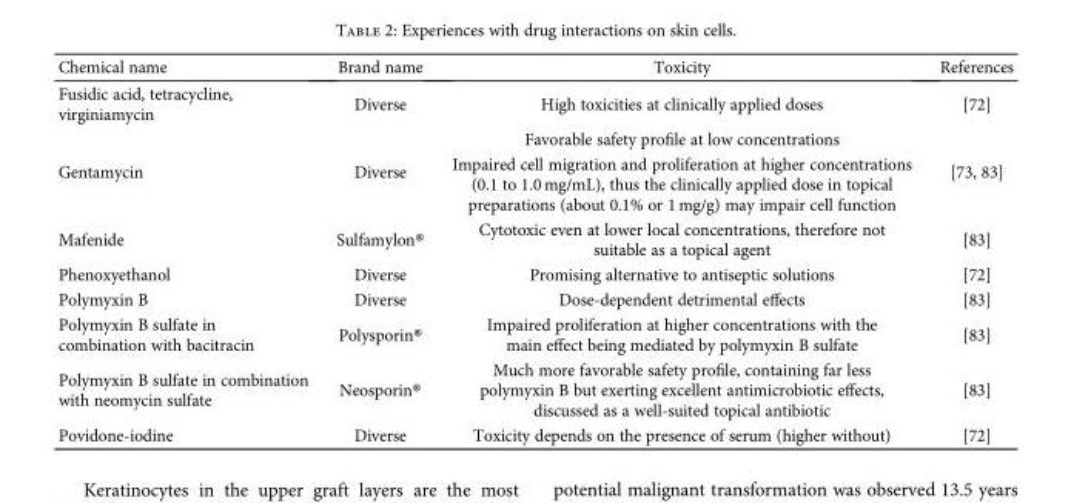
<table><thead><tr><td>Chemical name</td><td>Brand name</td><td>Toxicity</td><td>References</td></tr></thead><tbody><tr><td>Fusidic acid, tetracycline, virginiamycin</td><td>Diverse</td><td>High toxicities at clinically applied doses</td><td>[72]</td></tr><tr><td rowspan="2">Gentamycin</td><td rowspan="2">Diverse</td><td>Favorable safety profile at low concentrations</td><td rowspan="2">[73, 83]</td></tr><tr><td>Impaired cell migration and proliferation at higher concentrations (0.1 to 1.0 mg/mL), thus the clinically applied dose in topical preparations (about 0.1% or 1 mg/g) may impair cell function</td></tr><tr><td>Mafenide</td><td>Sulfamylon®</td><td>Cytotoxic even at lower local concentrations, therefore not suitable as a topical agent</td><td>[83]</td></tr><tr><td>Phenoxyethanol</td><td>Diverse</td><td>Promising alternative to antiseptic solutions</td><td>[72]</td></tr><tr><td>Polymyxin B</td><td>Diverse</td><td>Dose-dependent detrimental effects</td><td>[83]</td></tr><tr><td>Polymyxin B sulfate in combination with bacitracin</td><td>Polysporin®</td><td>Impaired proliferation at higher concentrations with the main effect being mediated by polymyxin B sulfate</td><td>[83]</td></tr><tr><td>Polymyxin B sulfate in combination with neomycin sulfate</td><td>Neosporin®</td><td>Much more favorable safety profile, containing far less polymyxin B but exerting excellent antimicrobiotic effects, discussed as a well-suited topical antibiotic</td><td>[83]</td></tr><tr><td>Povidone-iodine</td><td>Diverse</td><td>Toxicity depends on the presence of serum (higher without)</td><td>[72]</td></tr></tbody></table>